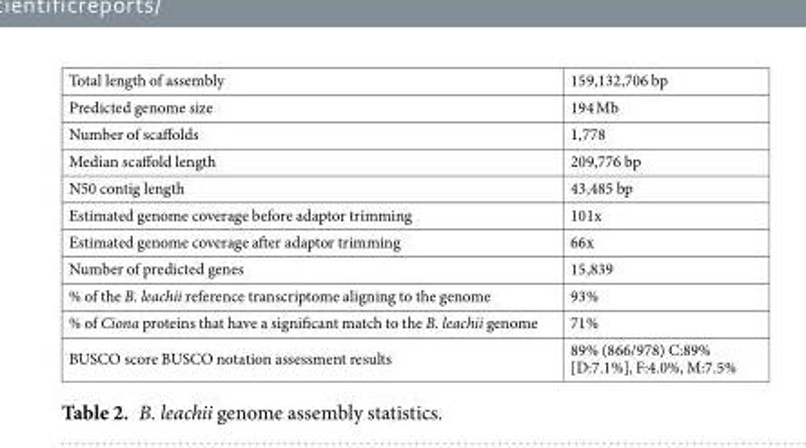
<table><tbody><tr><td>Total length of assembly</td><td>159,132,706 bp</td></tr><tr><td>Predicted genome size</td><td>194 Mb</td></tr><tr><td>Number of scaffolds</td><td>1,778</td></tr><tr><td>Median scaffold length</td><td>209,776 bp</td></tr><tr><td>N50 contig length</td><td>43,485 bp</td></tr><tr><td>Estimated genome coverage before adaptor trimming</td><td>101x</td></tr><tr><td>Estimated genome coverage after adaptor trimming</td><td>66x</td></tr><tr><td>Number of predicted genes</td><td>15,839</td></tr><tr><td>% of the B. leachii reference transcriptome aligning to the genome</td><td>93%</td></tr><tr><td>% of Ciona proteins that have a significant match to the B. leachii genome</td><td>71%</td></tr><tr><td>BUSCO score BUSCO notation assessment results</td><td>89% (866/978) C:89% [D:7.1%], F:4.0%, M:7.5%</td></tr></tbody></table>